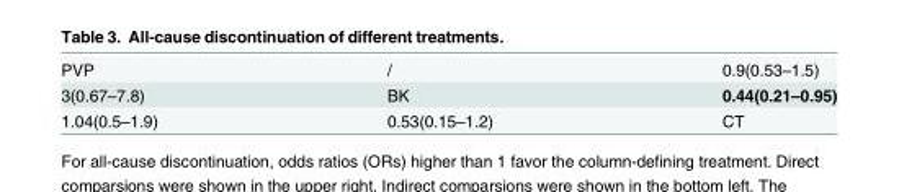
<table><tbody><tr><td>PVP</td><td>/</td><td>0.9(0.53–1.5)</td></tr><tr><td>3(0.67–7.8)</td><td>BK</td><td>0.44(0.21–0.95)</td></tr><tr><td>1.04(0.5–1.9)</td><td>0.53(0.15–1.2)</td><td>CT</td></tr></tbody></table>